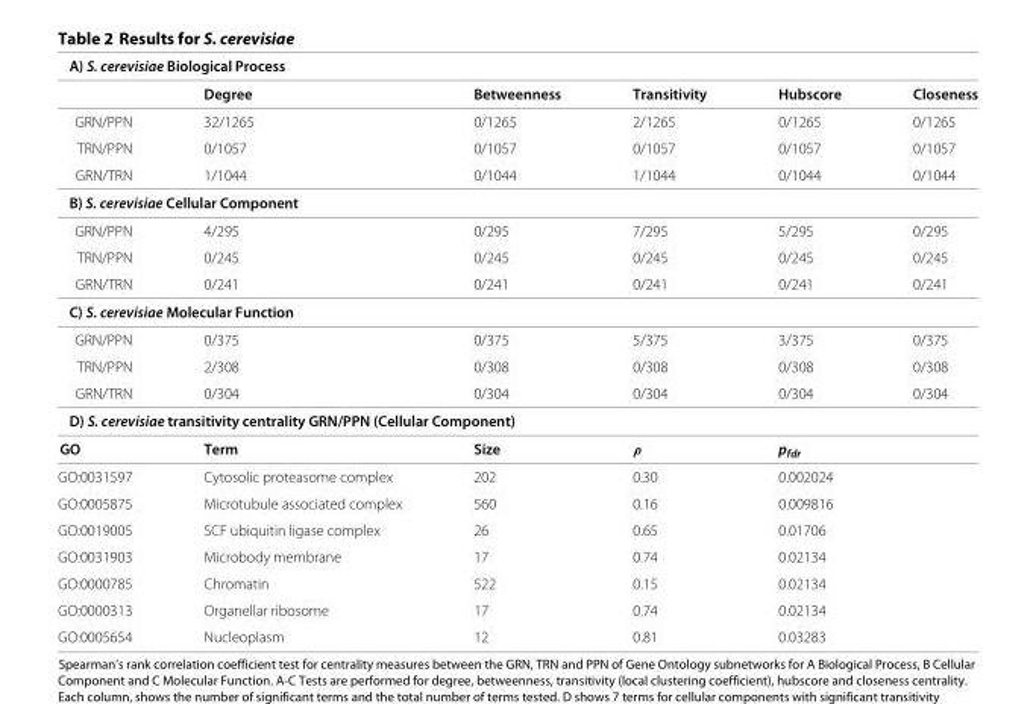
<table><thead><tr><td colspan="6">A) S. cerevisiae Biological Process</td></tr><tr><td></td><td>Degree</td><td>Betweenness</td><td>Transitivity</td><td>Hubscore</td><td>Closeness</td></tr></thead><tbody><tr><td>GRN/PPN</td><td>32/1265</td><td>0/1265</td><td>2/1265</td><td>0/1265</td><td>0/1265</td></tr><tr><td>TRN/PPN</td><td>0/1057</td><td>0/1057</td><td>0/1057</td><td>0/1057</td><td>0/1057</td></tr><tr><td>GRN/TRN</td><td>1/1044</td><td>0/1044</td><td>1/1044</td><td>0/1044</td><td>0/1044</td></tr><tr><td colspan="6">B) S. cerevisiae Cellular Component</td></tr><tr><td>GRN/PPN</td><td>4/295</td><td>0/295</td><td>7/295</td><td>5/295</td><td>0/295</td></tr><tr><td>TRN/PPN</td><td>0/245</td><td>0/245</td><td>0/245</td><td>0/245</td><td>0/245</td></tr><tr><td>GRN/TRN</td><td>0/241</td><td>0/241</td><td>0/241</td><td>0/241</td><td>0/241</td></tr><tr><td colspan="6">C) S. cerevisiae Molecular Function</td></tr><tr><td>GRN/PPN</td><td>0/375</td><td>0/375</td><td>5/375</td><td>3/375</td><td>0/375</td></tr><tr><td>TRN/PPN</td><td>2/308</td><td>0/308</td><td>0/308</td><td>0/308</td><td>0/308</td></tr><tr><td>GRN/TRN</td><td>0/304</td><td>0/304</td><td>0/304</td><td>0/304</td><td>0/304</td></tr><tr><td colspan="6">D) S. cerevisiae transitivity centrality GRN/PPN (Cellular Component)</td></tr><tr><td>GO</td><td>Term</td><td>Size</td><td>ρ</td><td>p<sub>fdr</sub></td><td></td></tr><tr><td>GO:0031597</td><td>Cytosolic proteasome complex</td><td>202</td><td>0.30</td><td>0.002024</td><td></td></tr><tr><td>GO:0005875</td><td>Microtubule associated complex</td><td>560</td><td>0.16</td><td>0.009816</td><td></td></tr><tr><td>GO:0019005</td><td>SCF ubiquitin ligase complex</td><td>26</td><td>0.65</td><td>0.01706</td><td></td></tr><tr><td>GO:0031903</td><td>Microbody membrane</td><td>17</td><td>0.74</td><td>0.02134</td><td></td></tr><tr><td>GO:0000785</td><td>Chromatin</td><td>522</td><td>0.15</td><td>0.02134</td><td></td></tr><tr><td>GO:0000313</td><td>Organellar ribosome</td><td>17</td><td>0.74</td><td>0.02134</td><td></td></tr><tr><td>GO:0005654</td><td>Nucleoplasm</td><td>12</td><td>0.81</td><td>0.03283</td><td></td></tr></tbody></table>